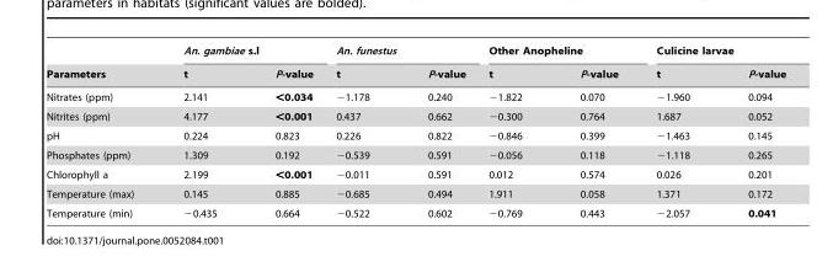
<table><thead><tr><td rowspan="2">Parameters</td><td colspan="2">An. gambiae s.l</td><td colspan="2">An. funestus</td><td colspan="2">Other Anopheline</td><td colspan="2">Culicine larvae</td></tr><tr><td>t</td><td>P-value</td><td>t</td><td>P-value</td><td>t</td><td>P-value</td><td>t</td><td>P-value</td></tr></thead><tbody><tr><td>Nitrates (ppm)</td><td>2.141</td><td>&lt;0.034</td><td>−1.178</td><td>0.240</td><td>−1.822</td><td>0.070</td><td>−1.960</td><td>0.094</td></tr><tr><td>Nitrites (ppm)</td><td>4.177</td><td>&lt;0.001</td><td>0.437</td><td>0.662</td><td>−0.300</td><td>0.764</td><td>1.687</td><td>0.052</td></tr><tr><td>pH</td><td>0.224</td><td>0.823</td><td>0.226</td><td>0.822</td><td>−0.846</td><td>0.399</td><td>−1.463</td><td>0.145</td></tr><tr><td>Phosphates (ppm)</td><td>1.309</td><td>0.192</td><td>−0.539</td><td>0.591</td><td>−0.056</td><td>0.118</td><td>−1.118</td><td>0.265</td></tr><tr><td>Chlorophyll a</td><td>2.199</td><td>&lt;0.001</td><td>−0.011</td><td>0.591</td><td>0.012</td><td>0.574</td><td>0.026</td><td>0.201</td></tr><tr><td>Temperature (max)</td><td>0.145</td><td>0.885</td><td>−0.685</td><td>0.494</td><td>1.911</td><td>0.058</td><td>1.371</td><td>0.172</td></tr><tr><td>Temperature (min)</td><td>−0.435</td><td>0.664</td><td>−0.522</td><td>0.602</td><td>−0.769</td><td>0.443</td><td>−2.057</td><td>0.041</td></tr></tbody></table>